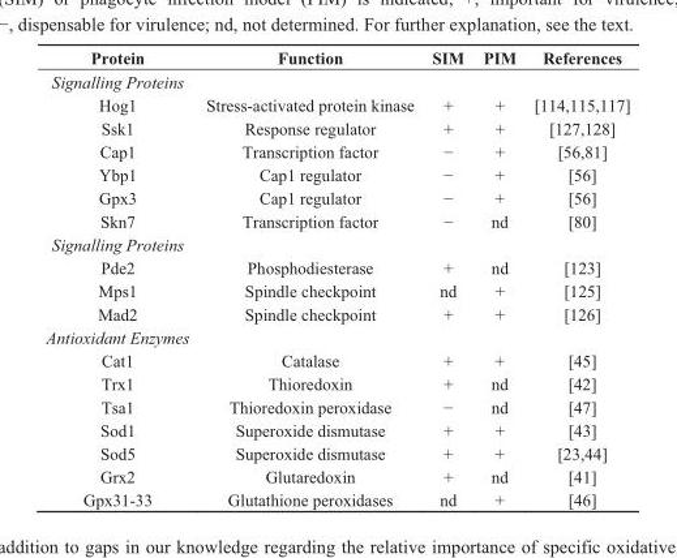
<table><thead><tr><td>Protein</td><td>Function</td><td>SIM</td><td>PIM</td><td>References</td></tr></thead><tbody><tr><td colspan="5">Signalling Proteins</td></tr><tr><td>Hog1</td><td>Stress-activated protein kinase</td><td>+</td><td>+</td><td>[114,115,117]</td></tr><tr><td>Ssk1</td><td>Response regulator</td><td>+</td><td>+</td><td>[127,128]</td></tr><tr><td>Cap1</td><td>Transcription factor</td><td>−</td><td>+</td><td>[56,81]</td></tr><tr><td>Ybp1</td><td>Cap1 regulator</td><td>−</td><td>+</td><td>[56]</td></tr><tr><td>Gpx3</td><td>Cap1 regulator</td><td>−</td><td>+</td><td>[56]</td></tr><tr><td>Skn7</td><td>Transcription factor</td><td>−</td><td>nd</td><td>[80]</td></tr><tr><td colspan="5">Signalling Proteins</td></tr><tr><td>Pde2</td><td>Phosphodiesterase</td><td>+</td><td>nd</td><td>[123]</td></tr><tr><td>Mps1</td><td>Spindle checkpoint</td><td>nd</td><td>+</td><td>[125]</td></tr><tr><td>Mad2</td><td>Spindle checkpoint</td><td>+</td><td>+</td><td>[126]</td></tr><tr><td colspan="5">Antioxidant Enzymes</td></tr><tr><td>Cat1</td><td>Catalase</td><td>+</td><td>+</td><td>[45]</td></tr><tr><td>Trx1</td><td>Thioredoxin</td><td>+</td><td>nd</td><td>[42]</td></tr><tr><td>Tsa1</td><td>Thioredoxin peroxidase</td><td>−</td><td>nd</td><td>[47]</td></tr><tr><td>Sod1</td><td>Superoxide dismutase</td><td>+</td><td>+</td><td>[43]</td></tr><tr><td>Sod5</td><td>Superoxide dismutase</td><td>+</td><td>+</td><td>[23,44]</td></tr><tr><td>Grx2</td><td>Glutaredoxin</td><td>+</td><td>nd</td><td>[41]</td></tr><tr><td>Gpx31-33</td><td>Glutathione peroxidases</td><td>nd</td><td>+</td><td>[46]</td></tr></tbody></table>